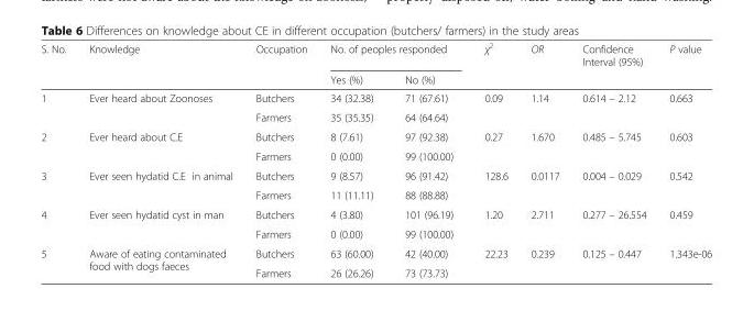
<table><thead><tr><td rowspan="2">S. No.</td><td rowspan="2">Knowledge</td><td rowspan="2">Occupation</td><td colspan="2">No. of peoples responded</td><td rowspan="2">χ<sup>2</sup></td><td rowspan="2">OR</td><td rowspan="2">Confidence Interval (95%)</td><td rowspan="2">P value</td></tr><tr><td>Yes (%)</td><td>No (%)</td></tr></thead><tbody><tr><td rowspan="2">1</td><td rowspan="2">Ever heard about Zoonoses</td><td>Butchers</td><td>34 (32.38)</td><td>71 (67.61)</td><td>0.09</td><td>1.14</td><td>0.614 – 2.12</td><td>0.663</td></tr><tr><td>Farmers</td><td>35 (35.35)</td><td>64 (64.64)</td><td colspan="4"></td></tr><tr><td rowspan="2">2</td><td rowspan="2">Ever heard about C.E</td><td>Butchers</td><td>8 (7.61)</td><td>97 (92.38)</td><td>0.27</td><td>1.670</td><td>0.485 – 5.745</td><td>0.603</td></tr><tr><td>Farmers</td><td>0 (0.00)</td><td>99 (100.00)</td><td colspan="4"></td></tr><tr><td rowspan="2">3</td><td rowspan="2">Ever seen hydatid C.E in animal</td><td>Butchers</td><td>9 (8.57)</td><td>96 (91.42)</td><td>128.6</td><td>0.0117</td><td>0.004 – 0.029</td><td>0.542</td></tr><tr><td>Farmers</td><td>11 (11.11)</td><td>88 (88.88)</td><td></td><td></td><td></td><td></td></tr><tr><td rowspan="2">4</td><td rowspan="2">Ever seen hydatid cyst in man</td><td>Butchers</td><td>4 (3.80)</td><td>101 (96.19)</td><td>1.20</td><td>2.711</td><td>0.277 – 26.554</td><td>0.459</td></tr><tr><td>Farmers</td><td>0 (0.00)</td><td>99 (100.00)</td><td colspan="4"></td></tr><tr><td rowspan="2">5</td><td rowspan="2">Aware of eating contaminated food with dogs faeces</td><td>Butchers</td><td>63 (60.00)</td><td>42 (40.00)</td><td>22.23</td><td>0.239</td><td>0.125 – 0.447</td><td>1.343e-06</td></tr><tr><td>Farmers</td><td>26 (26.26)</td><td>73 (73.73)</td><td></td><td></td><td></td><td></td></tr></tbody></table>